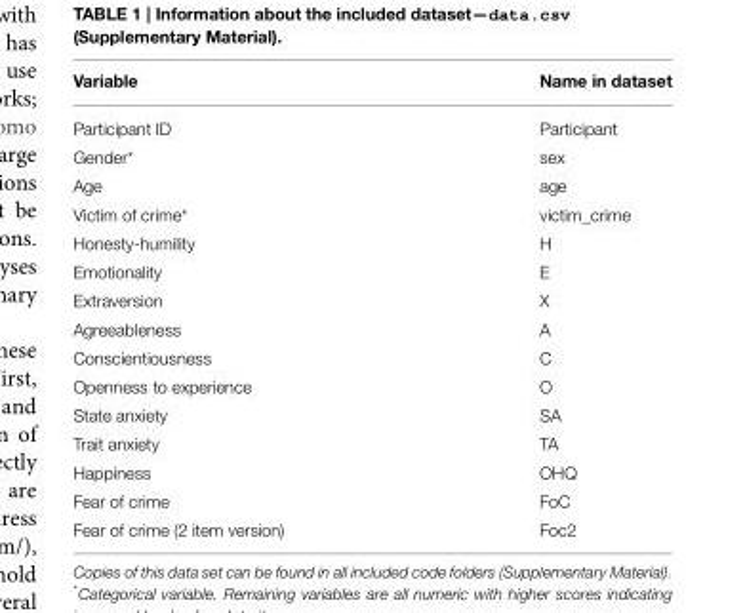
<table><thead><tr><td>Variable</td><td>Name in dataset</td></tr></thead><tbody><tr><td>Participant ID</td><td>Participant</td></tr><tr><td>Gender*</td><td>sex</td></tr><tr><td>Age</td><td>age</td></tr><tr><td>Victim of crime*</td><td>victim_crime</td></tr><tr><td>Honesty-humility</td><td>H</td></tr><tr><td>Emotionality</td><td>E</td></tr><tr><td>Extraversion</td><td>X</td></tr><tr><td>Agreeableness</td><td>A</td></tr><tr><td>Conscientiousness</td><td>C</td></tr><tr><td>Openness to experience</td><td>O</td></tr><tr><td>State anxiety</td><td>SA</td></tr><tr><td>Trait anxiety</td><td>TA</td></tr><tr><td>Happiness</td><td>OHQ</td></tr><tr><td>Fear of crime</td><td>FoC</td></tr><tr><td>Fear of crime (2 item version)</td><td>Foc2</td></tr></tbody></table>